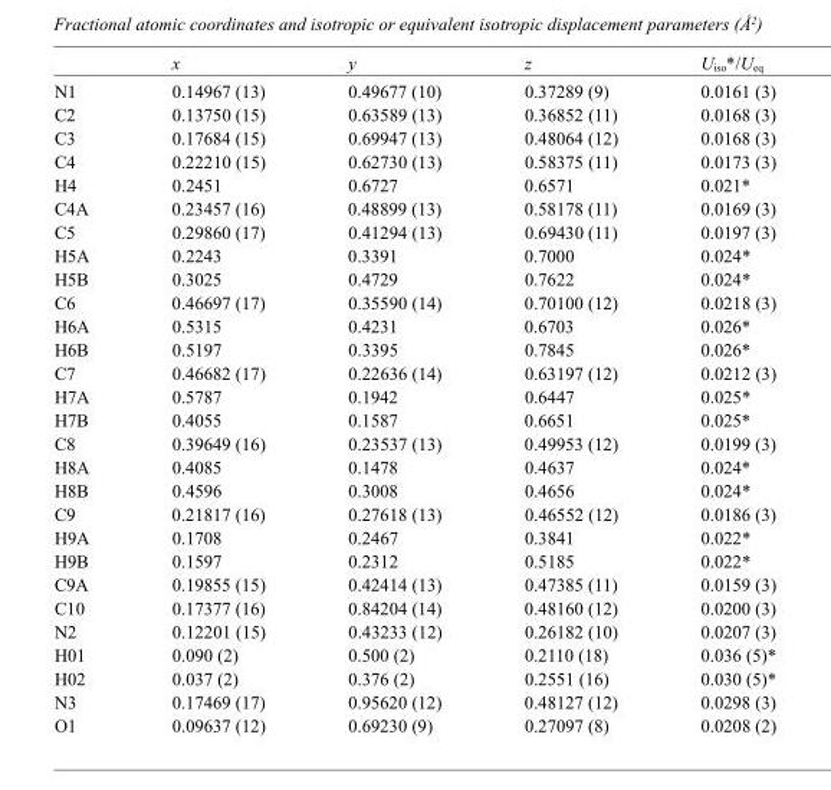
<table><thead><tr><td></td><td>x</td><td>y</td><td>z</td><td>U<sub>iso</sub>*/U<sub>eq</sub></td></tr></thead><tbody><tr><td>N1</td><td>0.14967 (13)</td><td>0.49677 (10)</td><td>0.37289 (9)</td><td>0.0161 (3)</td></tr><tr><td>C2</td><td>0.13750 (15)</td><td>0.63589 (13)</td><td>0.36852 (11)</td><td>0.0168 (3)</td></tr><tr><td>C3</td><td>0.17684 (15)</td><td>0.69947 (13)</td><td>0.48064 (12)</td><td>0.0168 (3)</td></tr><tr><td>C4</td><td>0.22210 (15)</td><td>0.62730 (13)</td><td>0.58375 (11)</td><td>0.0173 (3)</td></tr><tr><td>H4</td><td>0.2451</td><td>0.6727</td><td>0.6571</td><td>0.021*</td></tr><tr><td>C4A</td><td>0.23457 (16)</td><td>0.48899 (13)</td><td>0.58178 (11)</td><td>0.0169 (3)</td></tr><tr><td>C5</td><td>0.29860 (17)</td><td>0.41294 (13)</td><td>0.69430 (11)</td><td>0.0197 (3)</td></tr><tr><td>H5A</td><td>0.2243</td><td>0.3391</td><td>0.7000</td><td>0.024*</td></tr><tr><td>H5B</td><td>0.3025</td><td>0.4729</td><td>0.7622</td><td>0.024*</td></tr><tr><td>C6</td><td>0.46697 (17)</td><td>0.35590 (14)</td><td>0.70100 (12)</td><td>0.0218 (3)</td></tr><tr><td>H6A</td><td>0.5315</td><td>0.4231</td><td>0.6703</td><td>0.026*</td></tr><tr><td>H6B</td><td>0.5197</td><td>0.3395</td><td>0.7845</td><td>0.026*</td></tr><tr><td>C7</td><td>0.46682 (17)</td><td>0.22636 (14)</td><td>0.63197 (12)</td><td>0.0212 (3)</td></tr><tr><td>H7A</td><td>0.5787</td><td>0.1942</td><td>0.6447</td><td>0.025*</td></tr><tr><td>H7B</td><td>0.4055</td><td>0.1587</td><td>0.6651</td><td>0.025*</td></tr><tr><td>C8</td><td>0.39649 (16)</td><td>0.23537 (13)</td><td>0.49953 (12)</td><td>0.0199 (3)</td></tr><tr><td>H8A</td><td>0.4085</td><td>0.1478</td><td>0.4637</td><td>0.024*</td></tr><tr><td>H8B</td><td>0.4596</td><td>0.3008</td><td>0.4656</td><td>0.024*</td></tr><tr><td>C9</td><td>0.21817 (16)</td><td>0.27618 (13)</td><td>0.46552 (12)</td><td>0.0186 (3)</td></tr><tr><td>H9A</td><td>0.1708</td><td>0.2467</td><td>0.3841</td><td>0.022*</td></tr><tr><td>H9B</td><td>0.1597</td><td>0.2312</td><td>0.5185</td><td>0.022*</td></tr><tr><td>C9A</td><td>0.19855 (15)</td><td>0.42414 (13)</td><td>0.47385 (11)</td><td>0.0159 (3)</td></tr><tr><td>C10</td><td>0.17377 (16)</td><td>0.84204 (14)</td><td>0.48160 (12)</td><td>0.0200 (3)</td></tr><tr><td>N2</td><td>0.12201 (15)</td><td>0.43233 (12)</td><td>0.26182 (10)</td><td>0.0207 (3)</td></tr><tr><td>H01</td><td>0.090 (2)</td><td>0.500 (2)</td><td>0.2110 (18)</td><td>0.036 (5)*</td></tr><tr><td>H02</td><td>0.037 (2)</td><td>0.376 (2)</td><td>0.2551 (16)</td><td>0.030 (5)*</td></tr><tr><td>N3</td><td>0.17469 (17)</td><td>0.95620 (12)</td><td>0.48127 (12)</td><td>0.0298 (3)</td></tr><tr><td>O1</td><td>0.09637 (12)</td><td>0.69230 (9)</td><td>0.27097 (8)</td><td>0.0208 (2)</td></tr></tbody></table>